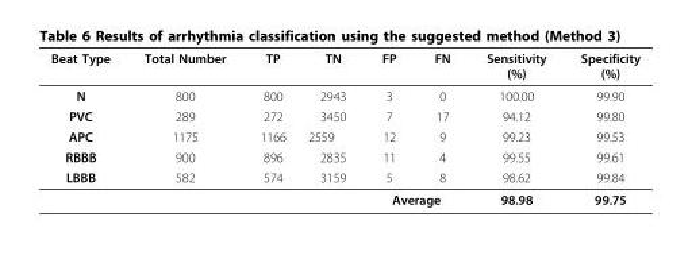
<table><thead><tr><td>Beat Type</td><td>Total Number</td><td>TP</td><td>TN</td><td>FP</td><td>FN</td><td>Sensitivity (%)</td><td>Specificity (%)</td></tr></thead><tbody><tr><td>N</td><td>800</td><td>800</td><td>2943</td><td>3</td><td>0</td><td>100.00</td><td>99.90</td></tr><tr><td>PVC</td><td>289</td><td>272</td><td>3450</td><td>7</td><td>17</td><td>94.12</td><td>99.80</td></tr><tr><td>APC</td><td>1175</td><td>1166</td><td>2559</td><td>12</td><td>9</td><td>99.23</td><td>99.53</td></tr><tr><td>RBBB</td><td>900</td><td>896</td><td>2835</td><td>11</td><td>4</td><td>99.55</td><td>99.61</td></tr><tr><td rowspan="2">LBBB</td><td>582</td><td>574</td><td>3159</td><td>5</td><td>8</td><td>98.62</td><td>99.84</td></tr><tr><td></td><td></td><td></td><td colspan="2">Average</td><td>98.98</td><td>99.75</td></tr></tbody></table>